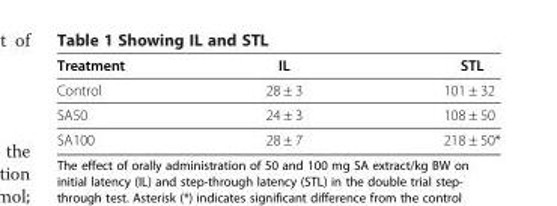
<table><thead><tr><td>Treatment</td><td>IL</td><td>STL</td></tr></thead><tbody><tr><td>Control</td><td>28 ± 3</td><td>101 ± 32</td></tr><tr><td>SA50</td><td>24 ± 3</td><td>108 ± 50</td></tr><tr><td>SA100</td><td>28 ± 7</td><td>218 ± 50*</td></tr></tbody></table>